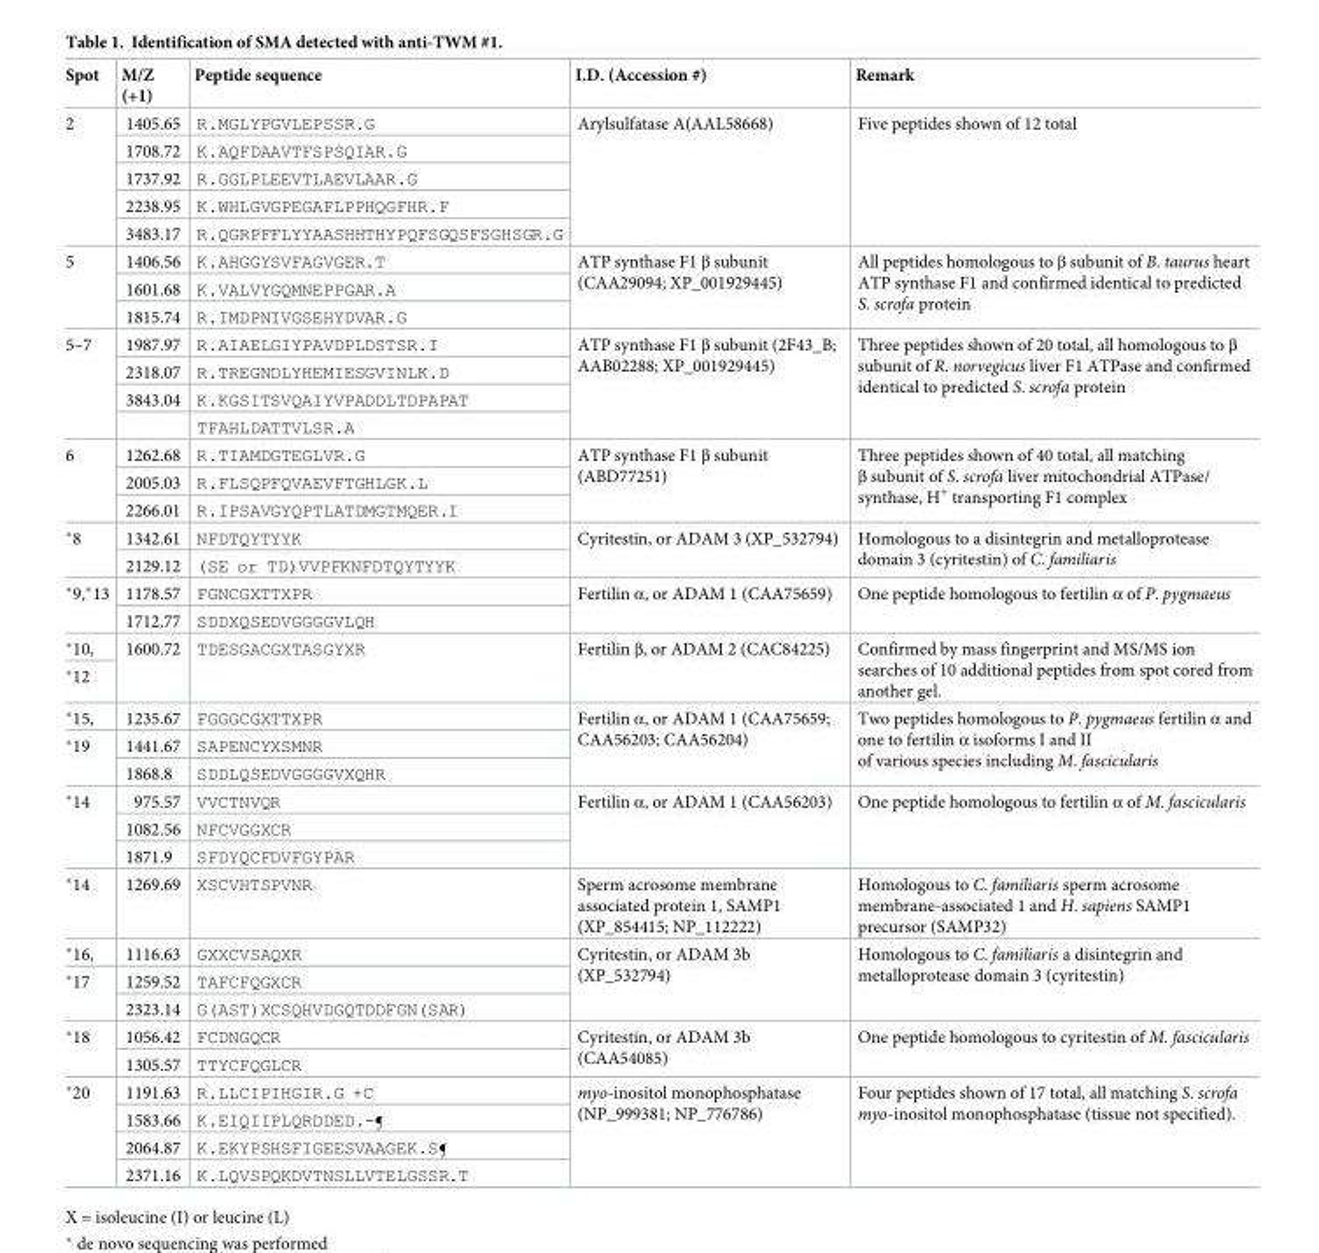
<table><thead><tr><td>Spot</td><td>M/Z (+1)</td><td>Peptide sequence</td><td>I.D. (Accession #)</td><td>Remark</td></tr></thead><tbody><tr><td rowspan="5">2</td><td>1405.65</td><td>R.MGLYPGVLEPSSR.G</td><td rowspan="5">Arylsulfatase A(AAL58668)</td><td rowspan="5">Five peptides shown of 12 total</td></tr><tr><td>1708.72</td><td>K.AQFDAAVTFSPSQIAR.G</td></tr><tr><td>1737.92</td><td>R.GGLPLEEVTLAEVLAAR.G</td></tr><tr><td>2238.95</td><td>K.WHLGVGPEGAFLPPHQGFHR.F</td></tr><tr><td>3483.17</td><td>R.QGRPFFLYYAASHHTHYPQFSGQSFSGHSGR.G</td></tr><tr><td rowspan="3">5</td><td>1406.56</td><td>K.AHGGYSVFAGVGER.T</td><td rowspan="3">ATP synthase F1 β subunit (CAA29094; XP_001929445)</td><td rowspan="3">All peptides homologous to β subunit of B. taurus heart ATP synthase F1 and confirmed identical to predicted S. scrofa protein</td></tr><tr><td>1601.68</td><td>K.VALVYGQMNEPPGAR.A</td></tr><tr><td>1815.74</td><td>R.IMDPNIVGSEHYDVAR.G</td></tr><tr><td rowspan="4">5–7</td><td>1987.97</td><td>R.AIAELGIYPAVDPLDSTSR.I</td><td rowspan="4">ATP synthase F1 β subunit (2F43_B; AAB02288; XP_001929445)</td><td rowspan="4">Three peptides shown of 20 total, all homologous to β subunit of R. norvegicus liver F1 ATPase and confirmed identical to predicted S. scrofa protein</td></tr><tr><td>2318.07</td><td>R.TREGNDLYHEMIESGVINLK.D</td></tr><tr><td>3843.04</td><td>K.KGSITSVQAIYVPADDLTDPAPAT</td></tr><tr><td></td><td>TFAHLDATTVLSR.A</td></tr><tr><td rowspan="3">6</td><td>1262.68</td><td>R.TIAMDGTEGLVR.G</td><td rowspan="3">ATP synthase F1 β subunit (ABD77251)</td><td rowspan="3">Three peptides shown of 40 total, all matching β subunit of S. scrofa liver mitochondrial ATPase/ synthase, H<sup>+</sup> transporting F1 complex</td></tr><tr><td>2005.03</td><td>R.FLSQPFQVAEVFTGHLGK.L</td></tr><tr><td>2266.01</td><td>R.IPSAVGYQPTLATDMGTMQER.I</td></tr><tr><td rowspan="2">*8</td><td>1342.61</td><td>NFDTQYTYYK</td><td rowspan="2">Cyritestin, or ADAM 3 (XP_532794)</td><td rowspan="2">Homologous to a disintegrin and metalloprotease domain 3 (cyritestin) of C. familiaris</td></tr><tr><td>2129.12</td><td>(SE or TD)VVPFKNFDTQYTYYK</td></tr><tr><td rowspan="2">*9,*13</td><td>1178.57</td><td>FGNCGXTTXPR</td><td rowspan="2">Fertilin α, or ADAM 1 (CAA75659)</td><td rowspan="2">One peptide homologous to fertilin α of P. pygmaeus</td></tr><tr><td>1712.77</td><td>SDDXQSEDVGGGGVLQH</td></tr><tr><td>*10,</td><td rowspan="2">1600.72</td><td rowspan="2">TDESGACGXTASGYXR</td><td rowspan="2">Fertilin β, or ADAM 2 (CAC84225)</td><td rowspan="2">Confirmed by mass fingerprint and MS/MS ion searches of 10 additional peptides from spot cored from another gel.</td></tr><tr><td>*12</td></tr><tr><td>*15,</td><td>1235.67</td><td>FGGGCGXTTXPR</td><td rowspan="3">Fertilin α, or ADAM 1 (CAA75659; CAA56203; CAA56204)</td><td rowspan="3">Two peptides homologous to P. pygmaeus fertilin α and one to fertilin α isoforms I and II of various species including M. fascicularis</td></tr><tr><td rowspan="2">*19</td><td>1441.67</td><td>SAPENCYXSMNR</td></tr><tr><td>1868.8</td><td>SDDLQSEDVGGGGVXQHR</td></tr><tr><td rowspan="3">*14</td><td>975.57</td><td>VVCTNVQR</td><td rowspan="3">Fertilin α, or ADAM 1 (CAA56203)</td><td rowspan="3">One peptide homologous to fertilin α of M. fascicularis</td></tr><tr><td>1082.56</td><td>NFCVGGXCR</td></tr><tr><td>1871.9</td><td>SFDYQCFDVFGYPAR</td></tr><tr><td>*14</td><td>1269.69</td><td>XSCVHTSPVNR</td><td>Sperm acrosome membrane associated protein 1, SAMP1 (XP_854415; NP_112222)</td><td>Homologous to C. familiaris sperm acrosome membrane-associated 1 and H. sapiens SAMP1 precursor (SAMP32)</td></tr><tr><td>*16,</td><td>1116.63</td><td>GXXCVSAQXR</td><td rowspan="3">Cyritestin, or ADAM 3b (XP_532794)</td><td rowspan="3">Homologous to C. familiaris a disintegrin and metalloprotease domain 3 (cyritestin)</td></tr><tr><td rowspan="2">*17</td><td>1259.52</td><td>TAFCFQGXCR</td></tr><tr><td>2323.14</td><td>G(AST)XCSQHVDGQTDDFGN(SAR)</td></tr><tr><td rowspan="2">*18</td><td>1056.42</td><td>FCDNGQCR</td><td rowspan="2">Cyritestin, or ADAM 3b (CAA54085)</td><td rowspan="2">One peptide homologous to cyritestin of M. fascicularis</td></tr><tr><td>1305.57</td><td>TTYCFQGLCR</td></tr><tr><td rowspan="4">*20</td><td>1191.63</td><td>R.LLCIPIHGIR.G +C</td><td rowspan="4">myo-inositol monophosphatase (NP_999381; NP_776786)</td><td rowspan="4">Four peptides shown of 17 total, all matching S. scrofa myo-inositol monophosphatase (tissue not specified).</td></tr><tr><td>1583.66</td><td>K.EIQIIPLQRDDED.-¶</td></tr><tr><td>2064.87</td><td>K.EKYPSHSFIGEESVAAGEK.S¶</td></tr><tr><td>2371.16</td><td>K.LQVSPQKDVTNSLLVTELGSSR.T</td></tr></tbody></table>